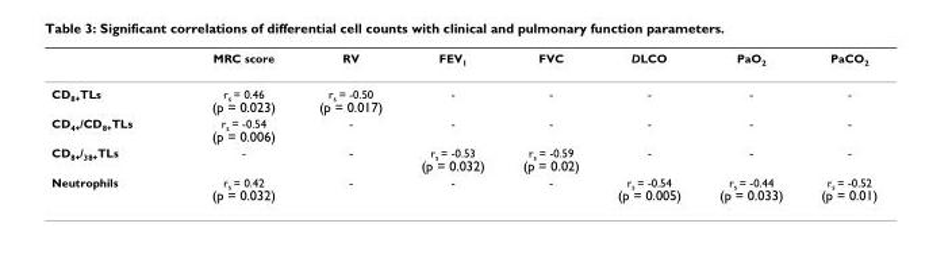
<table><thead><tr><td></td><td>MRC score</td><td>RV</td><td>FEV<sub>1</sub></td><td>FVC</td><td>DLCO</td><td>PaO<sub>2</sub></td><td>PaCO<sub>2</sub></td></tr></thead><tbody><tr><td>CD<sub>8+</sub>TLs</td><td>r<sub>s</sub> = 0.46 (p = 0.023)</td><td>r<sub>s</sub> = -0.50 (p = 0.017)</td><td>-</td><td>-</td><td>-</td><td>-</td><td>-</td></tr><tr><td>CD<sub>4+</sub>/CD<sub>8+</sub>TLs</td><td>r<sub>s</sub> = -0.54 (p = 0.006)</td><td>-</td><td>-</td><td>-</td><td>-</td><td>-</td><td>-</td></tr><tr><td>CD<sub>8+</sub>/<sub>38+</sub>TLs</td><td>-</td><td>-</td><td>r<sub>s</sub> = -0.53 (p = 0.032)</td><td>r<sub>s</sub> = -0.59 (p = 0.02)</td><td>-</td><td>-</td><td>-</td></tr><tr><td>Neutrophils</td><td>r<sub>s</sub> = 0.42 (p = 0.032)</td><td>-</td><td>-</td><td>-</td><td>r<sub>s</sub> = -0.54 (p = 0.005)</td><td>r<sub>s</sub> = -0.44 (p = 0.033)</td><td>r<sub>s</sub> = -0.52 (p = 0.01)</td></tr></tbody></table>